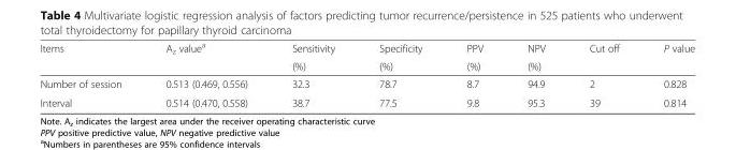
<table><thead><tr><td rowspan="2">Items</td><td rowspan="2">A<sub>z</sub> value<sup>a</sup></td><td rowspan="2">Sensitivity (%)</td><td rowspan="2">Specificity (%)</td><td rowspan="2">PPV (%)</td><td rowspan="2">NPV (%)</td><td rowspan="2">Cut off</td><td rowspan="2">P value</td></tr><tr></tr></thead><tbody><tr><td>Number of session</td><td>0.513 (0.469, 0.556)</td><td>32.3</td><td>78.7</td><td>8.7</td><td>94.9</td><td>2</td><td>0.828</td></tr><tr><td>Interval</td><td>0.514 (0.470, 0.558)</td><td>38.7</td><td>77.5</td><td>9.8</td><td>95.3</td><td>39</td><td>0.814</td></tr></tbody></table>